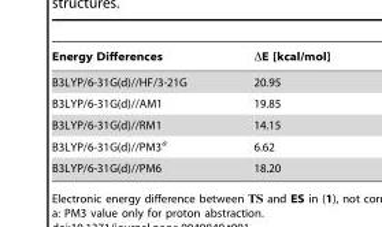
<table><thead><tr><td>Energy Differences</td><td>DE [kcal/mol]</td></tr></thead><tbody><tr><td>B3LYP/6-31G(d)//HF/3-21G</td><td>20.95</td></tr><tr><td>B3LYP/6-31G(d)//AM1</td><td>19.85</td></tr><tr><td>B3LYP/6-31G(d)//RM1</td><td>14.15</td></tr><tr><td>B3LYP/6-31G(d)//PM3<sup>a</sup></td><td>6.62</td></tr><tr><td>B3LYP/6-31G(d)//PM6</td><td>18.20</td></tr></tbody></table>